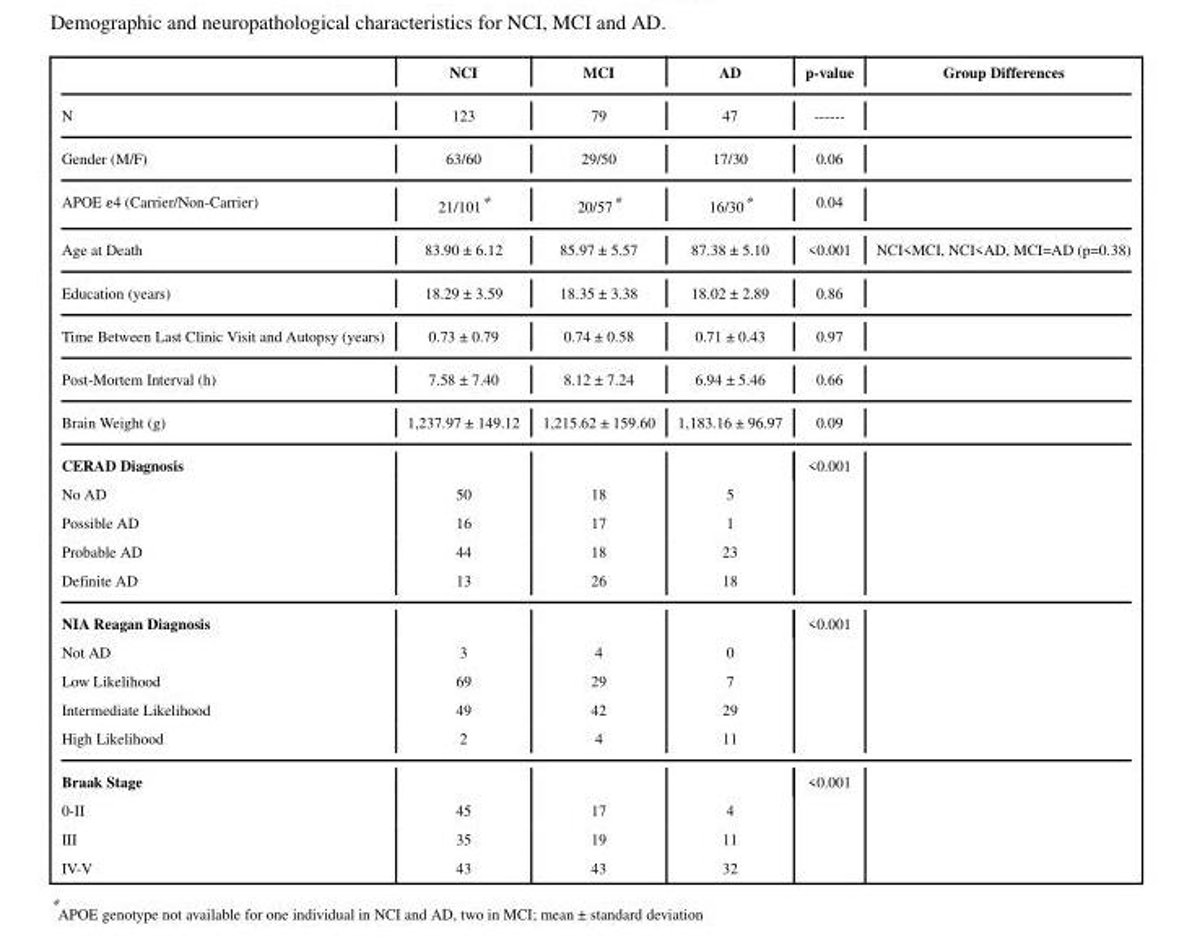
<table><thead><tr><td></td><td>NCI</td><td>MCI</td><td>AD</td><td>p-value</td><td>Group Differences</td></tr></thead><tbody><tr><td>N</td><td>123</td><td>79</td><td>47</td><td>------</td><td></td></tr><tr><td>Gender (M/F)</td><td>63/60</td><td>29/50</td><td>17/30</td><td>0.06</td><td></td></tr><tr><td>APOE ε4 (Carrier/Non-Carrier)</td><td>21/101*</td><td>20/57*</td><td>16/30*</td><td>0.04</td><td></td></tr><tr><td>Age at Death</td><td>83.90 ± 6.12</td><td>85.97 ± 5.57</td><td>87.38 ± 5.10</td><td>&lt;0.001</td><td>NCI&lt;MCI, NCI&lt;AD, MCI=AD (p=0.38)</td></tr><tr><td>Education (years)</td><td>18.29 ± 3.59</td><td>18.35 ± 3.38</td><td>18.02 ± 2.89</td><td>0.86</td><td></td></tr><tr><td>Time Between Last Clinic Visit and Autopsy (years)</td><td>0.73 ± 0.79</td><td>0.74 ± 0.58</td><td>0.71 ± 0.43</td><td>0.97</td><td></td></tr><tr><td>Post-Mortem Interval (h)</td><td>7.58 ± 7.40</td><td>8.12 ± 7.24</td><td>6.94 ± 5.46</td><td>0.66</td><td></td></tr><tr><td>Brain Weight (g)</td><td>1,237.97 ± 149.12</td><td>1,215.62 ± 159.60</td><td>1,183.16 ± 96.97</td><td>0.09</td><td></td></tr><tr><td colspan="4">CERAD Diagnosis</td><td rowspan="5">&lt;0.001</td><td rowspan="5"></td></tr><tr><td>No AD</td><td>50</td><td>18</td><td>5</td></tr><tr><td>Possible AD</td><td>16</td><td>17</td><td>1</td></tr><tr><td>Probable AD</td><td>44</td><td>18</td><td>23</td></tr><tr><td>Definite AD</td><td>13</td><td>26</td><td>18</td></tr><tr><td colspan="4">NIA Reagan Diagnosis</td><td rowspan="5">&lt;0.001</td><td rowspan="5"></td></tr><tr><td>Not AD</td><td>3</td><td>4</td><td>0</td></tr><tr><td>Low Likelihood</td><td>69</td><td>29</td><td>7</td></tr><tr><td>Intermediate Likelihood</td><td>49</td><td>42</td><td>29</td></tr><tr><td>High Likelihood</td><td>2</td><td>4</td><td>11</td></tr><tr><td colspan="4">Braak Stage</td><td rowspan="4">&lt;0.001</td><td rowspan="4"></td></tr><tr><td>0-II</td><td>45</td><td>17</td><td>4</td></tr><tr><td>III</td><td>35</td><td>19</td><td>11</td></tr><tr><td>IV-V</td><td>43</td><td>43</td><td>32</td></tr></tbody></table>